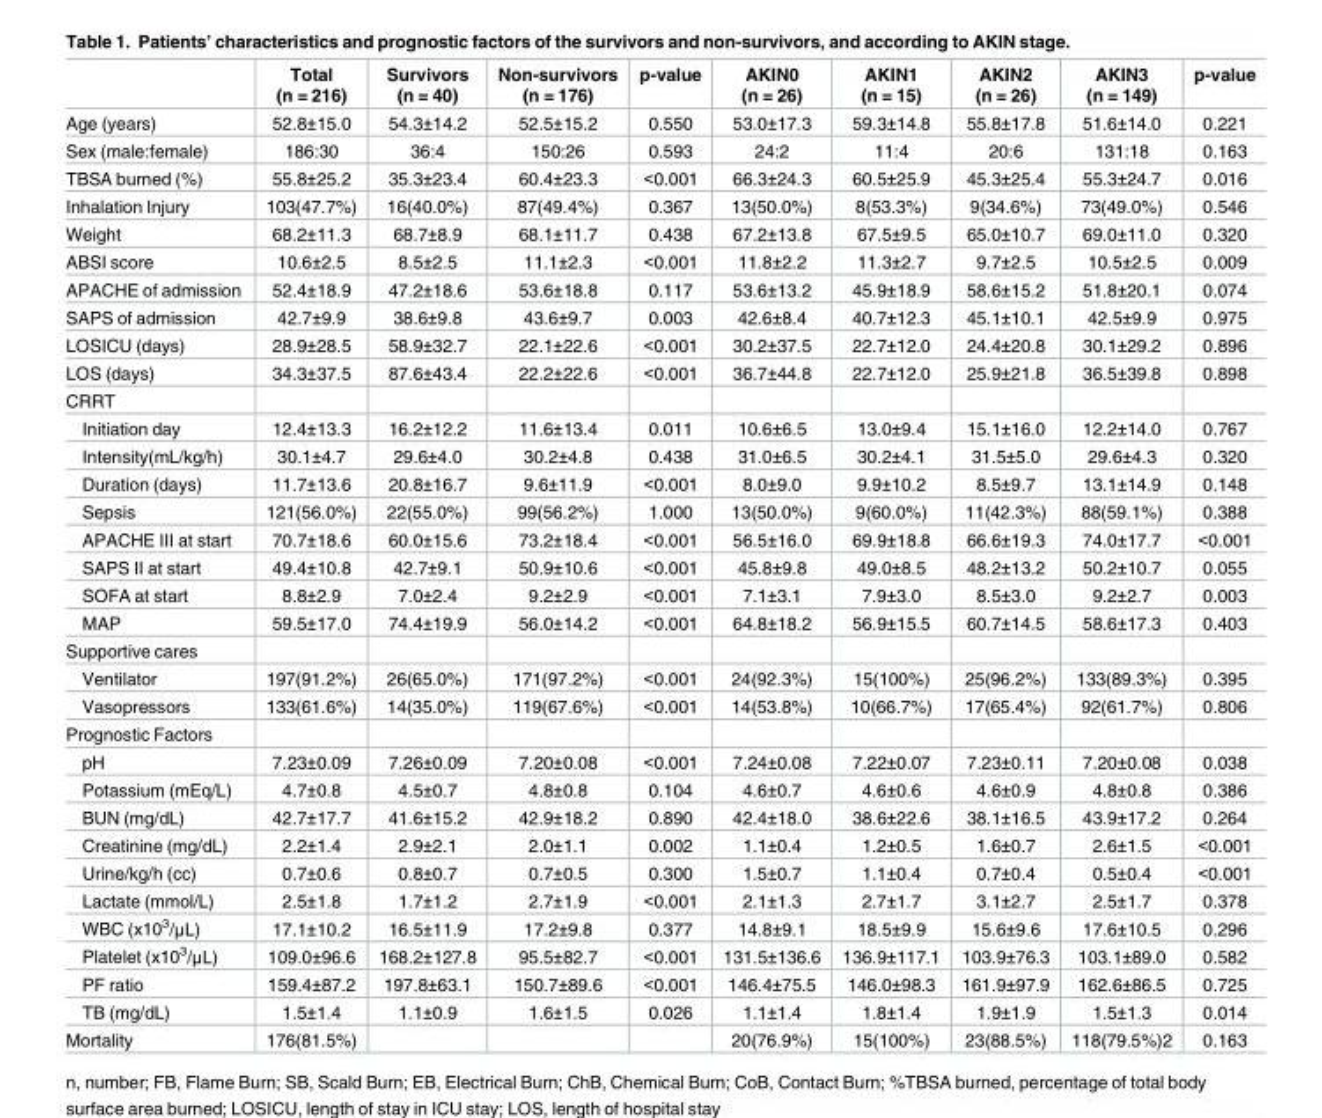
<table><thead><tr><td></td><td>Total (n = 216)</td><td>Survivors (n = 40)</td><td>Non-survivors (n = 176)</td><td>p-value</td><td>AKIN0 (n = 26)</td><td>AKIN1 (n = 15)</td><td>AKIN2 (n = 26)</td><td>AKIN3 (n = 149)</td><td>p-value</td></tr></thead><tbody><tr><td>Age (years)</td><td>52.8±15.0</td><td>54.3±14.2</td><td>52.5±15.2</td><td>0.550</td><td>53.0±17.3</td><td>59.3±14.8</td><td>55.8±17.8</td><td>51.6±14.0</td><td>0.221</td></tr><tr><td>Sex (male:female)</td><td>186:30</td><td>36:4</td><td>150:26</td><td>0.593</td><td>24:2</td><td>11:4</td><td>20:6</td><td>131:18</td><td>0.163</td></tr><tr><td>TBSA burned (%)</td><td>55.8±25.2</td><td>35.3±23.4</td><td>60.4±23.3</td><td>&lt;0.001</td><td>66.3±24.3</td><td>60.5±25.9</td><td>45.3±25.4</td><td>55.3±24.7</td><td>0.016</td></tr><tr><td>Inhalation Injury</td><td>103(47.7%)</td><td>16(40.0%)</td><td>87(49.4%)</td><td>0.367</td><td>13(50.0%)</td><td>8(53.3%)</td><td>9(34.6%)</td><td>73(49.0%)</td><td>0.546</td></tr><tr><td>Weight</td><td>68.2±11.3</td><td>68.7±8.9</td><td>68.1±11.7</td><td>0.438</td><td>67.2±13.8</td><td>67.5±9.5</td><td>65.0±10.7</td><td>69.0±11.0</td><td>0.320</td></tr><tr><td>ABSI score</td><td>10.6±2.5</td><td>8.5±2.5</td><td>11.1±2.3</td><td>&lt;0.001</td><td>11.8±2.2</td><td>11.3±2.7</td><td>9.7±2.5</td><td>10.5±2.5</td><td>0.009</td></tr><tr><td>APACHE of admission</td><td>52.4±18.9</td><td>47.2±18.6</td><td>53.6±18.8</td><td>0.117</td><td>53.6±13.2</td><td>45.9±18.9</td><td>58.6±15.2</td><td>51.8±20.1</td><td>0.074</td></tr><tr><td>SAPS of admission</td><td>42.7±9.9</td><td>38.6±9.8</td><td>43.6±9.7</td><td>0.003</td><td>42.6±8.4</td><td>40.7±12.3</td><td>45.1±10.1</td><td>42.5±9.9</td><td>0.975</td></tr><tr><td>LOSICU (days)</td><td>28.9±28.5</td><td>58.9±32.7</td><td>22.1±22.6</td><td>&lt;0.001</td><td>30.2±37.5</td><td>22.7±12.0</td><td>24.4±20.8</td><td>30.1±29.2</td><td>0.896</td></tr><tr><td>LOS (days)</td><td>34.3±37.5</td><td>87.6±43.4</td><td>22.2±22.6</td><td>&lt;0.001</td><td>36.7±44.8</td><td>22.7±12.0</td><td>25.9±21.8</td><td>36.5±39.8</td><td>0.898</td></tr><tr><td colspan="10">CRRT</td></tr><tr><td>Initiation day</td><td>12.4±13.3</td><td>16.2±12.2</td><td>11.6±13.4</td><td>0.011</td><td>10.6±6.5</td><td>13.0±9.4</td><td>15.1±16.0</td><td>12.2±14.0</td><td>0.767</td></tr><tr><td>Intensity(mL/kg/h)</td><td>30.1±4.7</td><td>29.6±4.0</td><td>30.2±4.8</td><td>0.438</td><td>31.0±6.5</td><td>30.2±4.1</td><td>31.5±5.0</td><td>29.6±4.3</td><td>0.320</td></tr><tr><td>Duration (days)</td><td>11.7±13.6</td><td>20.8±16.7</td><td>9.6±11.9</td><td>&lt;0.001</td><td>8.0±9.0</td><td>9.9±10.2</td><td>8.5±9.7</td><td>13.1±14.9</td><td>0.148</td></tr><tr><td>Sepsis</td><td>121(56.0%)</td><td>22(55.0%)</td><td>99(56.2%)</td><td>1.000</td><td>13(50.0%)</td><td>9(60.0%)</td><td>11(42.3%)</td><td>88(59.1%)</td><td>0.388</td></tr><tr><td>APACHE III at start</td><td>70.7±18.6</td><td>60.0±15.6</td><td>73.2±18.4</td><td>&lt;0.001</td><td>56.5±16.0</td><td>69.9±18.8</td><td>66.6±19.3</td><td>74.0±17.7</td><td>&lt;0.001</td></tr><tr><td>SAPS II at start</td><td>49.4±10.8</td><td>42.7±9.1</td><td>50.9±10.6</td><td>&lt;0.001</td><td>45.8±9.8</td><td>49.0±8.5</td><td>48.2±13.2</td><td>50.2±10.7</td><td>0.055</td></tr><tr><td>SOFA at start</td><td>8.8±2.9</td><td>7.0±2.4</td><td>9.2±2.9</td><td>&lt;0.001</td><td>7.1±3.1</td><td>7.9±3.0</td><td>8.5±3.0</td><td>9.2±2.7</td><td>0.003</td></tr><tr><td>MAP</td><td>59.5±17.0</td><td>74.4±19.9</td><td>56.0±14.2</td><td>&lt;0.001</td><td>64.8±18.2</td><td>56.9±15.5</td><td>60.7±14.5</td><td>58.6±17.3</td><td>0.403</td></tr><tr><td colspan="10">Supportive cares</td></tr><tr><td>Ventilator</td><td>197(91.2%)</td><td>26(65.0%)</td><td>171(97.2%)</td><td>&lt;0.001</td><td>24(92.3%)</td><td>15(100%)</td><td>25(96.2%)</td><td>133(89.3%)</td><td>0.395</td></tr><tr><td>Vasopressors</td><td>133(61.6%)</td><td>14(35.0%)</td><td>119(67.6%)</td><td>&lt;0.001</td><td>14(53.8%)</td><td>10(66.7%)</td><td>17(65.4%)</td><td>92(61.7%)</td><td>0.806</td></tr><tr><td colspan="10">Prognostic Factors</td></tr><tr><td>pH</td><td>7.23±0.09</td><td>7.26±0.09</td><td>7.20±0.08</td><td>&lt;0.001</td><td>7.24±0.08</td><td>7.22±0.07</td><td>7.23±0.11</td><td>7.20±0.08</td><td>0.038</td></tr><tr><td>Potassium (mEq/L)</td><td>4.7±0.8</td><td>4.5±0.7</td><td>4.8±0.8</td><td>0.104</td><td>4.6±0.7</td><td>4.6±0.6</td><td>4.6±0.9</td><td>4.8±0.8</td><td>0.386</td></tr><tr><td>BUN (mg/dL)</td><td>42.7±17.7</td><td>41.6±15.2</td><td>42.9±18.2</td><td>0.890</td><td>42.4±18.0</td><td>38.6±22.6</td><td>38.1±16.5</td><td>43.9±17.2</td><td>0.264</td></tr><tr><td>Creatinine (mg/dL)</td><td>2.2±1.4</td><td>2.9±2.1</td><td>2.0±1.1</td><td>0.002</td><td>1.1±0.4</td><td>1.2±0.5</td><td>1.6±0.7</td><td>2.6±1.5</td><td>&lt;0.001</td></tr><tr><td>Urine/kg/h (cc)</td><td>0.7±0.6</td><td>0.8±0.7</td><td>0.7±0.5</td><td>0.300</td><td>1.5±0.7</td><td>1.1±0.4</td><td>0.7±0.4</td><td>0.5±0.4</td><td>&lt;0.001</td></tr><tr><td>Lactate (mmol/L)</td><td>2.5±1.8</td><td>1.7±1.2</td><td>2.7±1.9</td><td>&lt;0.001</td><td>2.1±1.3</td><td>2.7±1.7</td><td>3.1±2.7</td><td>2.5±1.7</td><td>0.378</td></tr><tr><td>WBC (x10<sup>3</sup>/μL)</td><td>17.1±10.2</td><td>16.5±11.9</td><td>17.2±9.8</td><td>0.377</td><td>14.8±9.1</td><td>18.5±9.9</td><td>15.6±9.6</td><td>17.6±10.5</td><td>0.296</td></tr><tr><td>Platelet (x10<sup>3</sup>/μL)</td><td>109.0±96.6</td><td>168.2±127.8</td><td>95.5±82.7</td><td>&lt;0.001</td><td>131.5±136.6</td><td>136.9±117.1</td><td>103.9±76.3</td><td>103.1±89.0</td><td>0.582</td></tr><tr><td>PF ratio</td><td>159.4±87.2</td><td>197.8±63.1</td><td>150.7±89.6</td><td>&lt;0.001</td><td>146.4±75.5</td><td>146.0±98.3</td><td>161.9±97.9</td><td>162.6±86.5</td><td>0.725</td></tr><tr><td>TB (mg/dL)</td><td>1.5±1.4</td><td>1.1±0.9</td><td>1.6±1.5</td><td>0.026</td><td>1.1±1.4</td><td>1.8±1.4</td><td>1.9±1.9</td><td>1.5±1.3</td><td>0.014</td></tr><tr><td>Mortality</td><td>176(81.5%)</td><td></td><td></td><td></td><td>20(76.9%)</td><td>15(100%)</td><td>23(88.5%)</td><td>118(79.5%)2</td><td>0.163</td></tr></tbody></table>